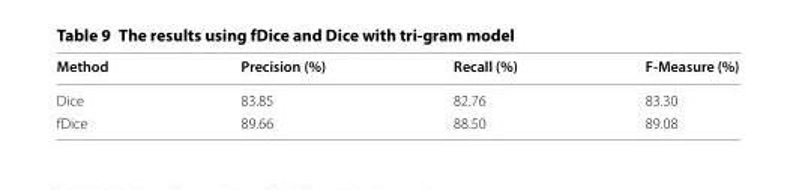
<table><thead><tr><td>Method</td><td>Precision (%)</td><td>Recall (%)</td><td>F-Measure (%)</td></tr></thead><tbody><tr><td>Dice</td><td>83.85</td><td>82.76</td><td>83.30</td></tr><tr><td>fDice</td><td>89.66</td><td>88.50</td><td>89.08</td></tr></tbody></table>